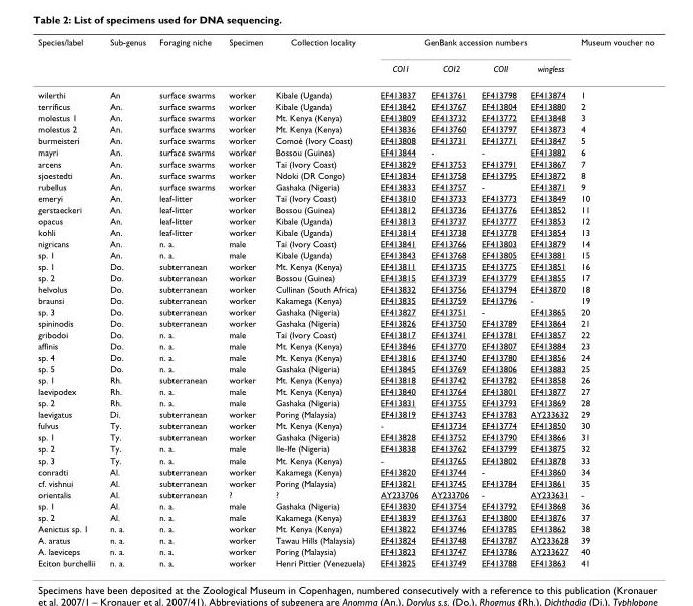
<table><thead><tr><td rowspan="2">Species/label</td><td rowspan="2">Sub-genus</td><td rowspan="2">Foraging niche</td><td rowspan="2">Specimen</td><td rowspan="2">Collection locality</td><td colspan="4">GenBank accession numbers</td><td rowspan="2">Museum voucher no</td></tr><tr><td>COI1</td><td>COI2</td><td>COII</td><td>wingless</td></tr></thead><tbody><tr><td>wilerthi</td><td>An</td><td>surface swarms</td><td>worker</td><td>Kibale (Uganda)</td><td>EF413837</td><td>EF413761</td><td>EF413798</td><td>EF413874</td><td>1</td></tr><tr><td>terrificus</td><td>An.</td><td>surface swarms</td><td>worker</td><td>Kibale (Uganda)</td><td>EF413842</td><td>EF413767</td><td>EF413804</td><td>EF413880</td><td>2</td></tr><tr><td>molestus 1</td><td>An.</td><td>surface swarms</td><td>worker</td><td>Mt. Kenya (Kenya)</td><td>EF413809</td><td>EF413732</td><td>EF413772</td><td>EF413848</td><td>3</td></tr><tr><td>molestus 2</td><td>An.</td><td>surface swarms</td><td>worker</td><td>Mt. Kenya (Kenya)</td><td>EF413836</td><td>EF413760</td><td>EF413797</td><td>EF413873</td><td>4</td></tr><tr><td>burmeisteri</td><td>An.</td><td>surface swarms</td><td>worker</td><td>Comoé (Ivory Coast)</td><td>EF413808</td><td>EF413731</td><td>EF413771</td><td>EF413847</td><td>5</td></tr><tr><td>mayri</td><td>An.</td><td>surface swarms</td><td>worker</td><td>Bossou (Guinea)</td><td>EF413844</td><td>-</td><td>-</td><td>EF413882</td><td>6</td></tr><tr><td>arcens</td><td>An.</td><td>surface swarms</td><td>worker</td><td>Taï (Ivory Coast)</td><td>EF413829</td><td>EF413753</td><td>EF413791</td><td>EF413867</td><td>7</td></tr><tr><td>sjoestedti</td><td>An.</td><td>surface swarms</td><td>worker</td><td>Ndoki (DR Congo)</td><td>EF413834</td><td>EF413758</td><td>EF413795</td><td>EF413872</td><td>8</td></tr><tr><td>rubellus</td><td>An.</td><td>surface swarms</td><td>worker</td><td>Gashaka (Nigeria)</td><td>EF413833</td><td>EF413757</td><td>-</td><td>EF413871</td><td>9</td></tr><tr><td>emeryi</td><td>An.</td><td>leaf-litter</td><td>worker</td><td>Taï (Ivory Coast)</td><td>EF413810</td><td>EF413733</td><td>EF413773</td><td>EF413849</td><td>10</td></tr><tr><td>gerstaeckeri</td><td>An.</td><td>leaf-litter</td><td>worker</td><td>Bossou (Guinea)</td><td>EF413812</td><td>EF413736</td><td>EF413776</td><td>EF413852</td><td>11</td></tr><tr><td>opacus</td><td>An.</td><td>leaf-litter</td><td>worker</td><td>Kibale (Uganda)</td><td>EF413813</td><td>EF413737</td><td>EF413777</td><td>EF413853</td><td>12</td></tr><tr><td>kohli</td><td>An.</td><td>leaf-litter</td><td>worker</td><td>Kibale (Uganda)</td><td>EF413814</td><td>EF413738</td><td>EF413778</td><td>EF413854</td><td>13</td></tr><tr><td>nigricans</td><td>An.</td><td>n. a.</td><td>male</td><td>Taï (Ivory Coast)</td><td>EF413841</td><td>EF413766</td><td>EF413803</td><td>EF413879</td><td>14</td></tr><tr><td>sp. 1</td><td>An.</td><td>n. a.</td><td>male</td><td>Kibale (Uganda)</td><td>EF413843</td><td>EF413768</td><td>EF413805</td><td>EF413881</td><td>15</td></tr><tr><td>sp. 1</td><td>Do.</td><td>subterranean</td><td>worker</td><td>Mt. Kenya (Kenya)</td><td>EF413811</td><td>EF413735</td><td>EF413775</td><td>EF413851</td><td>16</td></tr><tr><td>sp. 2</td><td>Do.</td><td>subterranean</td><td>worker</td><td>Bossou (Guinea)</td><td>EF413815</td><td>EF413739</td><td>EF413779</td><td>EF413855</td><td>17</td></tr><tr><td>helvolus</td><td>Do.</td><td>subterranean</td><td>worker</td><td>Cullinan (South Africa)</td><td>EF413832</td><td>EF413756</td><td>EF413794</td><td>EF413870</td><td>18</td></tr><tr><td>braunsi</td><td>Do.</td><td>subterranean</td><td>worker</td><td>Kakamega (Kenya)</td><td>EF413835</td><td>EF413759</td><td>EF413796</td><td>-</td><td>19</td></tr><tr><td>sp. 3</td><td>Do.</td><td>subterranean</td><td>worker</td><td>Gashaka (Nigeria)</td><td>EF413827</td><td>EF413751</td><td>-</td><td>EF413865</td><td>20</td></tr><tr><td>spininodis</td><td>Do.</td><td>subterranean</td><td>worker</td><td>Gashaka (Nigeria)</td><td>EF413826</td><td>EF413750</td><td>EF413789</td><td>EF413864</td><td>21</td></tr><tr><td>gribodoi</td><td>Do.</td><td>n. a.</td><td>male</td><td>Taï (Ivory Coast)</td><td>EF413817</td><td>EF413741</td><td>EF413781</td><td>EF413857</td><td>22</td></tr><tr><td>affinis</td><td>Do.</td><td>n. a.</td><td>male</td><td>Mt. Kenya (Kenya)</td><td>EF413846</td><td>EF413770</td><td>EF413807</td><td>EF413884</td><td>23</td></tr><tr><td>sp. 4</td><td>Do.</td><td>n. a.</td><td>male</td><td>Mt. Kenya (Kenya)</td><td>EF413816</td><td>EF413740</td><td>EF413780</td><td>EF413856</td><td>24</td></tr><tr><td>sp. 5</td><td>Do.</td><td>n. a.</td><td>male</td><td>Gashaka (Nigeria)</td><td>EF413845</td><td>EF413769</td><td>EF413806</td><td>EF413883</td><td>25</td></tr><tr><td>sp. 1</td><td>Rh.</td><td>subterranean</td><td>worker</td><td>Mt. Kenya (Kenya)</td><td>EF413818</td><td>EF413742</td><td>EF413782</td><td>EF413858</td><td>26</td></tr><tr><td>laevipodex</td><td>Rh.</td><td>n. a.</td><td>male</td><td>Mt. Kenya (Kenya)</td><td>EF413840</td><td>EF413764</td><td>EF413801</td><td>EF413877</td><td>27</td></tr><tr><td>sp. 2</td><td>Rh.</td><td>n. a.</td><td>male</td><td>Gashaka (Nigeria)</td><td>EF413831</td><td>EF413755</td><td>EF413793</td><td>EF413869</td><td>28</td></tr><tr><td>laevigatus</td><td>Di.</td><td>subterranean</td><td>worker</td><td>Poring (Malaysia)</td><td>EF413819</td><td>EF413743</td><td>EF413783</td><td>AY233632</td><td>29</td></tr><tr><td>fulvus</td><td>Ty.</td><td>subterranean</td><td>worker</td><td>Mt. Kenya (Kenya)</td><td>-</td><td>EF413734</td><td>EF413774</td><td>EF413850</td><td>30</td></tr><tr><td>sp. 1</td><td>Ty.</td><td>subterranean</td><td>worker</td><td>Gashaka (Nigeria)</td><td>EF413828</td><td>EF413752</td><td>EF413790</td><td>EF413866</td><td>31</td></tr><tr><td>sp. 2</td><td>Ty.</td><td>n. a.</td><td>male</td><td>Ile-Ife (Nigeria)</td><td>EF413838</td><td>EF413762</td><td>EF413799</td><td>EF413875</td><td>32</td></tr><tr><td>sp. 3</td><td>Ty.</td><td>n. a.</td><td>male</td><td>Mt. Kenya (Kenya)</td><td>-</td><td>EF413765</td><td>EF413802</td><td>EF413878</td><td>33</td></tr><tr><td>conradti</td><td>Al.</td><td>subterranean</td><td>worker</td><td>Kakamega (Kenya)</td><td>EF413820</td><td>EF413744</td><td>-</td><td>EF413860</td><td>34</td></tr><tr><td>cf. vishnui</td><td>Al.</td><td>subterranean</td><td>worker</td><td>Poring (Malaysia)</td><td>EF413821</td><td>EF413745</td><td>EF413784</td><td>EF413861</td><td>35</td></tr><tr><td>orientalis</td><td>Al.</td><td>subterranean</td><td>?</td><td>?</td><td>AY233706</td><td>AY233706</td><td>-</td><td>AY233631</td><td>-</td></tr><tr><td>sp. 1</td><td>Al.</td><td>n. a.</td><td>male</td><td>Gashaka (Nigeria)</td><td>EF413830</td><td>EF413754</td><td>EF413792</td><td>EF413868</td><td>36</td></tr><tr><td>sp. 2</td><td>Al.</td><td>n. a.</td><td>male</td><td>Kakamega (Kenya)</td><td>EF413839</td><td>EF413763</td><td>EF413800</td><td>EF413876</td><td>37</td></tr><tr><td>Aenictus sp. 1</td><td>n. a.</td><td>n. a.</td><td>worker</td><td>Mt. Kenya (Kenya)</td><td>EF413822</td><td>EF413746</td><td>EF413785</td><td>EF413862</td><td>38</td></tr><tr><td>A. aratus</td><td>n. a.</td><td>n. a.</td><td>worker</td><td>Tawau Hills (Malaysia)</td><td>EF413824</td><td>EF413748</td><td>EF413787</td><td>AY233628</td><td>39</td></tr><tr><td>A. laeviceps</td><td>n. a.</td><td>n. a.</td><td>worker</td><td>Poring (Malaysia)</td><td>EF413823</td><td>EF413747</td><td>EF413786</td><td>AY233627</td><td>40</td></tr><tr><td>Eciton burchellii</td><td>n. a.</td><td>n. a.</td><td>worker</td><td>Henri Pittier (Venezuela)</td><td>EF413825</td><td>EF413749</td><td>EF413788</td><td>EF413863</td><td>41</td></tr></tbody></table>